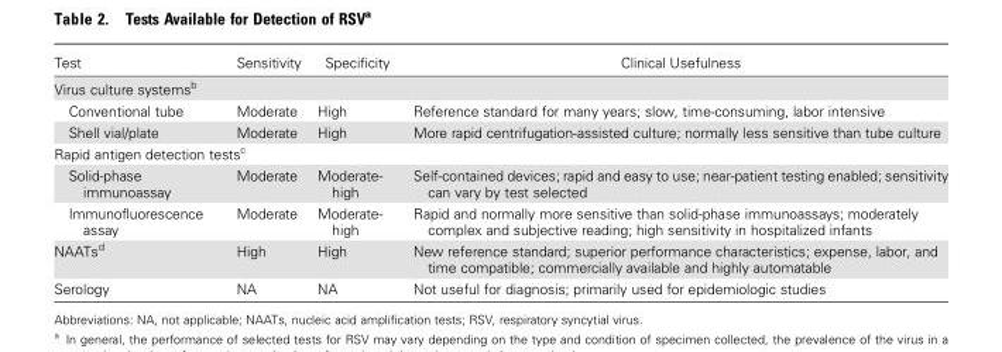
<table><thead><tr><td>Test</td><td>Sensitivity</td><td>Specificity</td><td>Clinical Usefulness</td></tr></thead><tbody><tr><td colspan="4">Virus culture systems<sup>b</sup></td></tr><tr><td>Conventional tube</td><td>Moderate</td><td>High</td><td>Reference standard for many years; slow, time-consuming, labor intensive</td></tr><tr><td>Shell vial/plate</td><td>Moderate</td><td>High</td><td>More rapid centrifugation-assisted culture; normally less sensitive than tube culture</td></tr><tr><td colspan="4">Rapid antigen detection tests<sup>c</sup></td></tr><tr><td>Solid-phase immunoassay</td><td>Moderate</td><td>Moderate- high</td><td>Self-contained devices; rapid and easy to use; near-patient testing enabled; sensitivity can vary by test selected</td></tr><tr><td>Immunofluorescence assay</td><td>Moderate</td><td>Moderate- high</td><td>Rapid and normally more sensitive than solid-phase immunoassays; moderately complex and subjective reading; high sensitivity in hospitalized infants</td></tr><tr><td>NAATs<sup>d</sup></td><td>High</td><td>High</td><td>New reference standard; superior performance characteristics; expense, labor, and time compatible; commercially available and highly automatable</td></tr><tr><td>Serology</td><td>NA</td><td>NA</td><td>Not useful for diagnosis; primarily used for epidemiologic studies</td></tr></tbody></table>